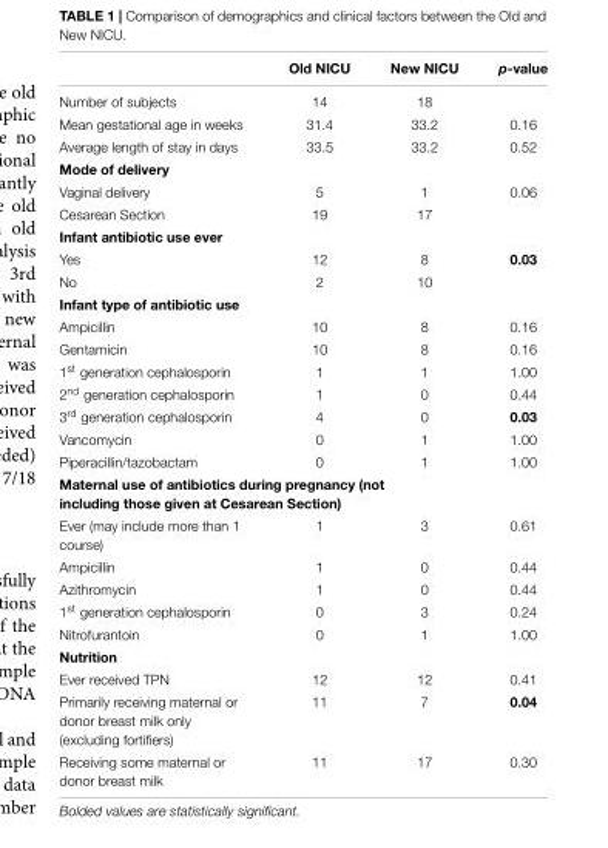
<table><thead><tr><td></td><td>Old NICU</td><td>New NICU</td><td>p-value</td></tr></thead><tbody><tr><td>Number of subjects</td><td>14</td><td>18</td><td></td></tr><tr><td>Mean gestational age in weeks</td><td>31.4</td><td>33.2</td><td>0.16</td></tr><tr><td>Average length of stay in days</td><td>33.5</td><td>33.2</td><td>0.52</td></tr><tr><td colspan="4">Mode of delivery</td></tr><tr><td>Vaginal delivery</td><td>5</td><td>1</td><td>0.06</td></tr><tr><td>Cesarean Section</td><td>19</td><td>17</td><td></td></tr><tr><td colspan="4">Infant antibiotic use ever</td></tr><tr><td>Yes</td><td>12</td><td>8</td><td>0.03</td></tr><tr><td>No</td><td>2</td><td>10</td><td></td></tr><tr><td colspan="4">Infant type of antibiotic use</td></tr><tr><td>Ampicillin</td><td>10</td><td>8</td><td>0.16</td></tr><tr><td>Gentamicin</td><td>10</td><td>8</td><td>0.16</td></tr><tr><td>1<sup>st</sup> generation cephalosporin</td><td>1</td><td>1</td><td>1.00</td></tr><tr><td>2<sup>nd</sup> generation cephalosporin</td><td>1</td><td>0</td><td>0.44</td></tr><tr><td>3<sup>rd</sup> generation cephalosporin</td><td>4</td><td>0</td><td>0.03</td></tr><tr><td>Vancomycin</td><td>0</td><td>1</td><td>1.00</td></tr><tr><td>Piperacillin/tazobactam</td><td>0</td><td>1</td><td>1.00</td></tr><tr><td colspan="4">Maternal use of antibiotics during pregnancy (not including those given at Cesarean Section)</td></tr><tr><td>Ever (may include more than 1 course)</td><td>1</td><td>3</td><td>0.61</td></tr><tr><td>Ampicillin</td><td>1</td><td>0</td><td>0.44</td></tr><tr><td>Azithromycin</td><td>1</td><td>0</td><td>0.44</td></tr><tr><td>1<sup>st</sup> generation cephalosporin</td><td>0</td><td>3</td><td>0.24</td></tr><tr><td>Nitrofurantoin</td><td>0</td><td>1</td><td>1.00</td></tr><tr><td colspan="4">Nutrition</td></tr><tr><td>Ever received TPN</td><td>12</td><td>12</td><td>0.41</td></tr><tr><td>Primarily receiving maternal or donor breast milk only (excluding fortifiers)</td><td>11</td><td>7</td><td>0.04</td></tr><tr><td>Receiving some maternal or donor breast milk</td><td>11</td><td>17</td><td>0.30</td></tr></tbody></table>